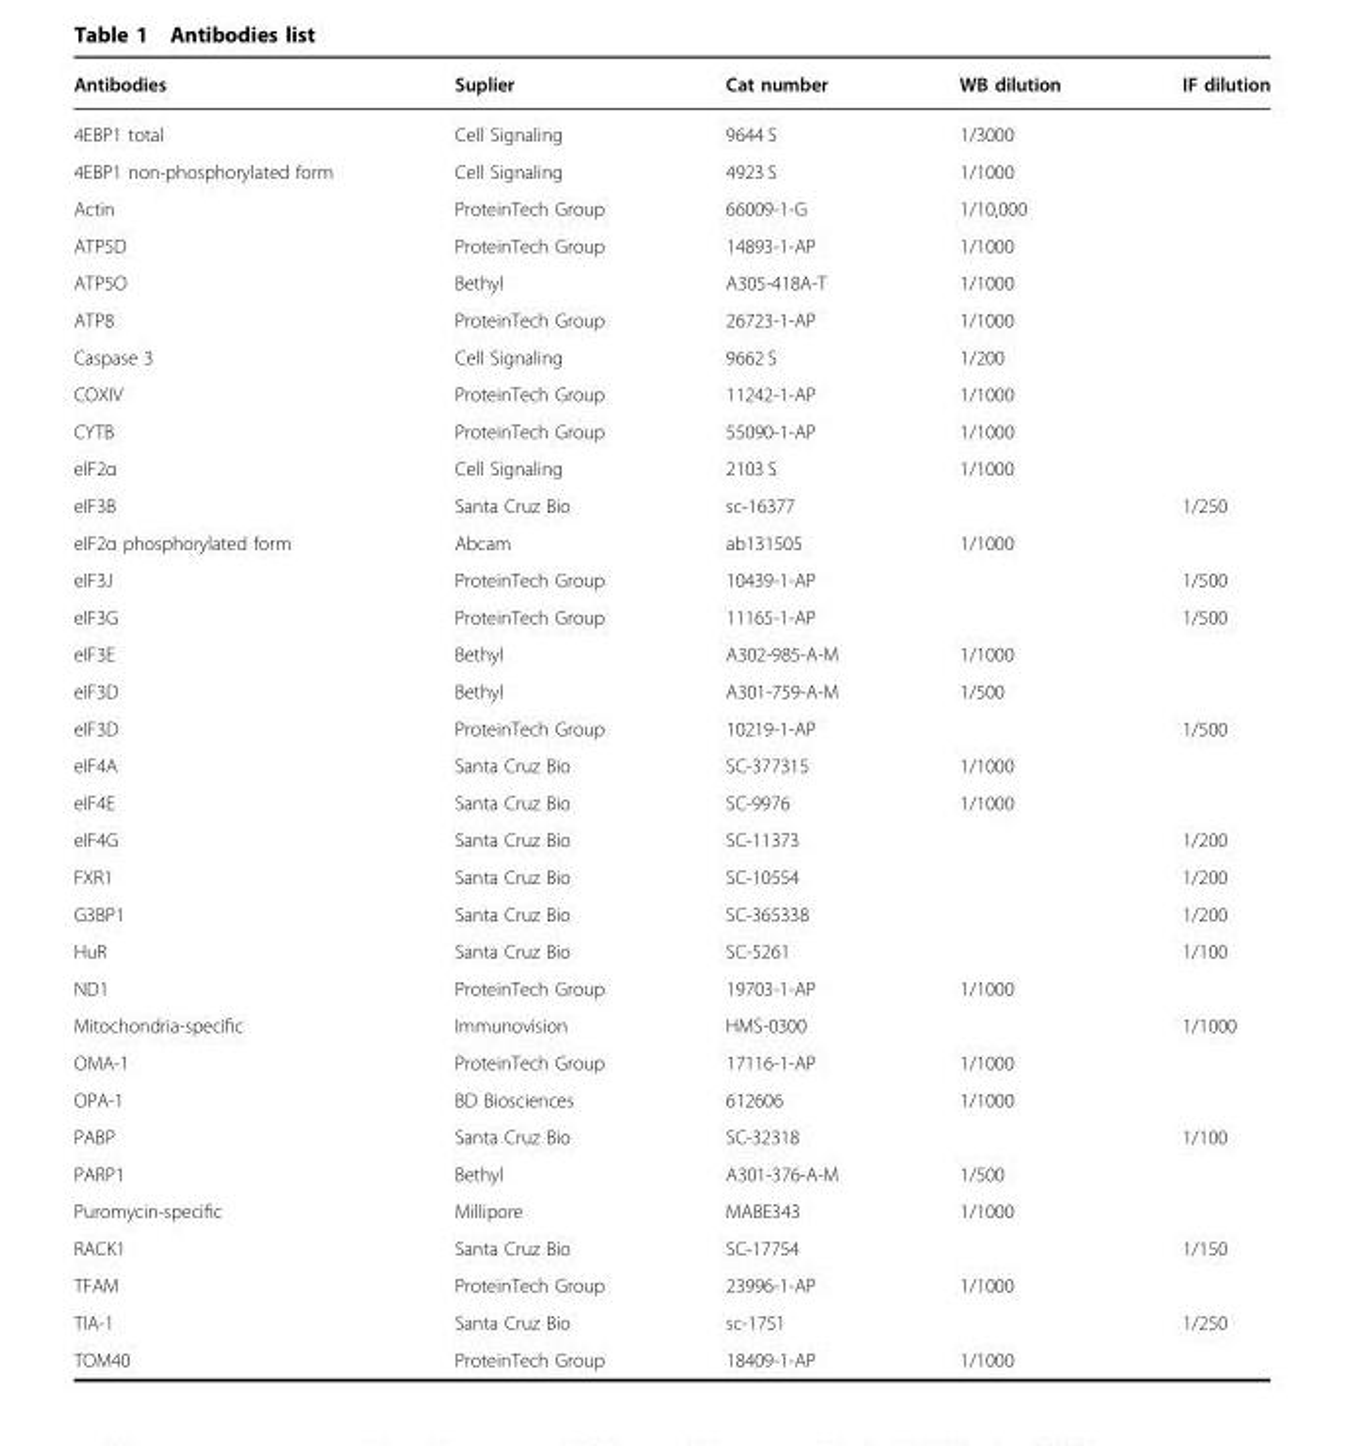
<table><thead><tr><td>Antibodies</td><td>Suplier</td><td>Cat number</td><td>WB dilution</td><td>IF dilution</td></tr></thead><tbody><tr><td>4EBP1 total</td><td>Cell Signaling</td><td>9644 S</td><td>1/3000</td><td></td></tr><tr><td>4EBP1 non-phosphorylated form</td><td>Cell Signaling</td><td>4923 S</td><td>1/1000</td><td></td></tr><tr><td>Actin</td><td>ProteinTech Group</td><td>66009-1-G</td><td>1/10,000</td><td></td></tr><tr><td>ATP5D</td><td>ProteinTech Group</td><td>14893-1-AP</td><td>1/1000</td><td></td></tr><tr><td>ATP5O</td><td>Bethyl</td><td>A305-418A-T</td><td>1/1000</td><td></td></tr><tr><td>ATP8</td><td>ProteinTech Group</td><td>26723-1-AP</td><td>1/1000</td><td></td></tr><tr><td>Caspase 3</td><td>Cell Signaling</td><td>9662 S</td><td>1/200</td><td></td></tr><tr><td>COXIV</td><td>ProteinTech Group</td><td>11242-1-AP</td><td>1/1000</td><td></td></tr><tr><td>CYTB</td><td>ProteinTech Group</td><td>55090-1-AP</td><td>1/1000</td><td></td></tr><tr><td>eIF2α</td><td>Cell Signaling</td><td>2103 S</td><td>1/1000</td><td></td></tr><tr><td>eIF3B</td><td>Santa Cruz Bio</td><td>sc-16377</td><td></td><td>1/250</td></tr><tr><td>eIF2α phosphorylated form</td><td>Abcam</td><td>ab131505</td><td>1/1000</td><td></td></tr><tr><td>eIF3J</td><td>ProteinTech Group</td><td>10439-1-AP</td><td></td><td>1/500</td></tr><tr><td>eIF3G</td><td>ProteinTech Group</td><td>11165-1-AP</td><td></td><td>1/500</td></tr><tr><td>eIF3E</td><td>Bethyl</td><td>A302-985-A-M</td><td>1/1000</td><td></td></tr><tr><td>eIF3D</td><td>Bethyl</td><td>A301-759-A-M</td><td>1/500</td><td></td></tr><tr><td>eIF3D</td><td>ProteinTech Group</td><td>10219-1-AP</td><td></td><td>1/500</td></tr><tr><td>eIF4A</td><td>Santa Cruz Bio</td><td>SC-377315</td><td>1/1000</td><td></td></tr><tr><td>eIF4E</td><td>Santa Cruz Bio</td><td>SC-9976</td><td>1/1000</td><td></td></tr><tr><td>eIF4G</td><td>Santa Cruz Bio</td><td>SC-11373</td><td></td><td>1/200</td></tr><tr><td>FXR1</td><td>Santa Cruz Bio</td><td>SC-10554</td><td></td><td>1/200</td></tr><tr><td>G3BP1</td><td>Santa Cruz Bio</td><td>SC-365338</td><td></td><td>1/200</td></tr><tr><td>HuR</td><td>Santa Cruz Bio</td><td>SC-5261</td><td></td><td>1/100</td></tr><tr><td>ND1</td><td>ProteinTech Group</td><td>19703-1-AP</td><td>1/1000</td><td></td></tr><tr><td>Mitochondria-specific</td><td>Immunovision</td><td>HMS-0300</td><td></td><td>1/1000</td></tr><tr><td>OMA-1</td><td>ProteinTech Group</td><td>17116-1-AP</td><td>1/1000</td><td></td></tr><tr><td>OPA-1</td><td>BD Biosciences</td><td>612606</td><td>1/1000</td><td></td></tr><tr><td>PABP</td><td>Santa Cruz Bio</td><td>SC-32318</td><td></td><td>1/100</td></tr><tr><td>PARP1</td><td>Bethyl</td><td>A301-376-A-M</td><td>1/500</td><td></td></tr><tr><td>Puromycin-specific</td><td>Millipore</td><td>MABE343</td><td>1/1000</td><td></td></tr><tr><td>RACK1</td><td>Santa Cruz Bio</td><td>SC-17754</td><td></td><td>1/150</td></tr><tr><td>TFAM</td><td>ProteinTech Group</td><td>23996-1-AP</td><td>1/1000</td><td></td></tr><tr><td>TIA-1</td><td>Santa Cruz Bio</td><td>sc-1751</td><td></td><td>1/250</td></tr><tr><td>TOM40</td><td>ProteinTech Group</td><td>18409-1-AP</td><td>1/1000</td><td></td></tr></tbody></table>